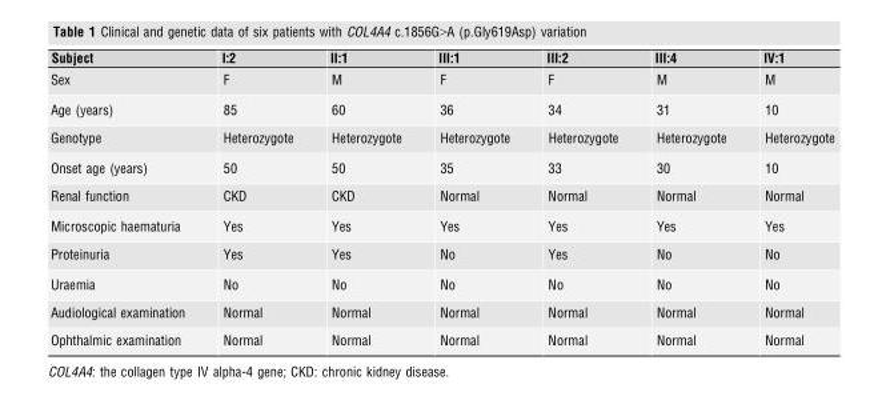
<table><thead><tr><td>Subject</td><td>I:2</td><td>II:1</td><td>III:1</td><td>III:2</td><td>III:4</td><td>IV:1</td></tr></thead><tbody><tr><td>Sex</td><td>F</td><td>M</td><td>F</td><td>F</td><td>M</td><td>M</td></tr><tr><td>Age (years)</td><td>85</td><td>60</td><td>36</td><td>34</td><td>31</td><td>10</td></tr><tr><td>Genotype</td><td>Heterozygote</td><td>Heterozygote</td><td>Heterozygote</td><td>Heterozygote</td><td>Heterozygote</td><td>Heterozygote</td></tr><tr><td>Onset age (years)</td><td>50</td><td>50</td><td>35</td><td>33</td><td>30</td><td>10</td></tr><tr><td>Renal function</td><td>CKD</td><td>CKD</td><td>Normal</td><td>Normal</td><td>Normal</td><td>Normal</td></tr><tr><td>Microscopic haematuria</td><td>Yes</td><td>Yes</td><td>Yes</td><td>Yes</td><td>Yes</td><td>Yes</td></tr><tr><td>Proteinuria</td><td>Yes</td><td>Yes</td><td>No</td><td>Yes</td><td>No</td><td>No</td></tr><tr><td>Uraemia</td><td>No</td><td>No</td><td>No</td><td>No</td><td>No</td><td>No</td></tr><tr><td>Audiological examination</td><td>Normal</td><td>Normal</td><td>Normal</td><td>Normal</td><td>Normal</td><td>Normal</td></tr><tr><td>Ophthalmic examination</td><td>Normal</td><td>Normal</td><td>Normal</td><td>Normal</td><td>Normal</td><td>Normal</td></tr></tbody></table>